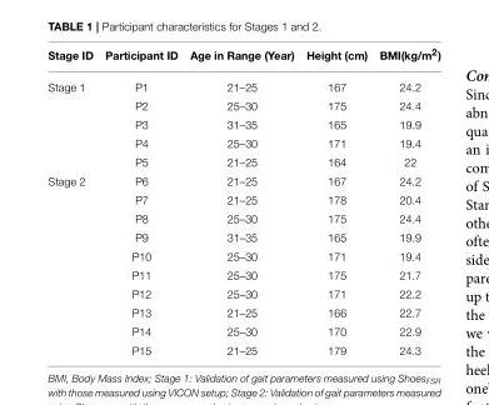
<table><thead><tr><td>Stage ID</td><td>Participant ID</td><td>Age in Range (Year)</td><td>Height (cm)</td><td>BMI(kg/m<sup>2</sup>)</td></tr></thead><tbody><tr><td rowspan="5">Stage 1</td><td>P1</td><td>21–25</td><td>167</td><td>24.2</td></tr><tr><td>P2</td><td>25–30</td><td>175</td><td>24.4</td></tr><tr><td>P3</td><td>31–35</td><td>165</td><td>19.9</td></tr><tr><td>P4</td><td>25–30</td><td>171</td><td>19.4</td></tr><tr><td>P5</td><td>21–25</td><td>164</td><td>22</td></tr><tr><td rowspan="10">Stage 2</td><td>P6</td><td>21–25</td><td>167</td><td>24.2</td></tr><tr><td>P7</td><td>21–25</td><td>178</td><td>20.4</td></tr><tr><td>P8</td><td>25–30</td><td>175</td><td>24.4</td></tr><tr><td>P9</td><td>31–35</td><td>165</td><td>19.9</td></tr><tr><td>P10</td><td>25–30</td><td>171</td><td>19.4</td></tr><tr><td>P11</td><td>25–30</td><td>175</td><td>21.7</td></tr><tr><td>P12</td><td>25–30</td><td>171</td><td>22.2</td></tr><tr><td>P13</td><td>21–25</td><td>166</td><td>22.7</td></tr><tr><td>P14</td><td>25–30</td><td>170</td><td>22.9</td></tr><tr><td>P15</td><td>21–25</td><td>179</td><td>24.3</td></tr></tbody></table>